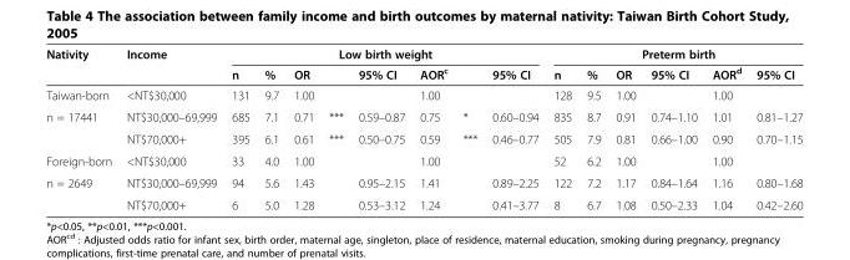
<table><thead><tr><td rowspan="2">Nativity</td><td rowspan="2">Income</td><td colspan="8">Low birth weight</td><td colspan="6">Preterm birth</td></tr><tr><td>n</td><td>%</td><td>OR</td><td></td><td>95% CI</td><td>AOR<sup>c</sup></td><td></td><td>95% CI</td><td>n</td><td>%</td><td>OR</td><td>95% CI</td><td>AOR<sup>d</sup></td><td>95% CI</td></tr></thead><tbody><tr><td>Taiwan-born</td><td>&lt;NT$30,000</td><td>131</td><td>9.7</td><td>1.00</td><td></td><td></td><td>1.00</td><td></td><td></td><td>128</td><td>9.5</td><td>1.00</td><td></td><td>1.00</td><td></td></tr><tr><td rowspan="2">n = 17441</td><td>NT$30,000–69,999</td><td>685</td><td>7.1</td><td>0.71</td><td>***</td><td>0.59–0.87</td><td>0.75</td><td>*</td><td>0.60–0.94</td><td>835</td><td>8.7</td><td>0.91</td><td>0.74–1.10</td><td>1.01</td><td>0.81–1.27</td></tr><tr><td>NT$70,000+</td><td>395</td><td>6.1</td><td>0.61</td><td>***</td><td>0.50–0.75</td><td>0.59</td><td>***</td><td>0.46–0.77</td><td>505</td><td>7.9</td><td>0.81</td><td>0.66–1.00</td><td>0.90</td><td>0.70–1.15</td></tr><tr><td>Foreign-born</td><td>&lt;NT$30,000</td><td>33</td><td>4.0</td><td>1.00</td><td></td><td></td><td>1.00</td><td></td><td></td><td>52</td><td>6.2</td><td>1.00</td><td></td><td>1.00</td><td></td></tr><tr><td rowspan="2">n = 2649</td><td>NT$30,000–69,999</td><td>94</td><td>5.6</td><td>1.43</td><td></td><td>0.95–2.15</td><td>1.41</td><td></td><td>0.89–2.25</td><td>122</td><td>7.2</td><td>1.17</td><td>0.84–1.64</td><td>1.16</td><td>0.80–1.68</td></tr><tr><td>NT$70,000+</td><td>6</td><td>5.0</td><td>1.28</td><td></td><td>0.53–3.12</td><td>1.24</td><td></td><td>0.41–3.77</td><td>8</td><td>6.7</td><td>1.08</td><td>0.50–2.33</td><td>1.04</td><td>0.42–2.60</td></tr></tbody></table>